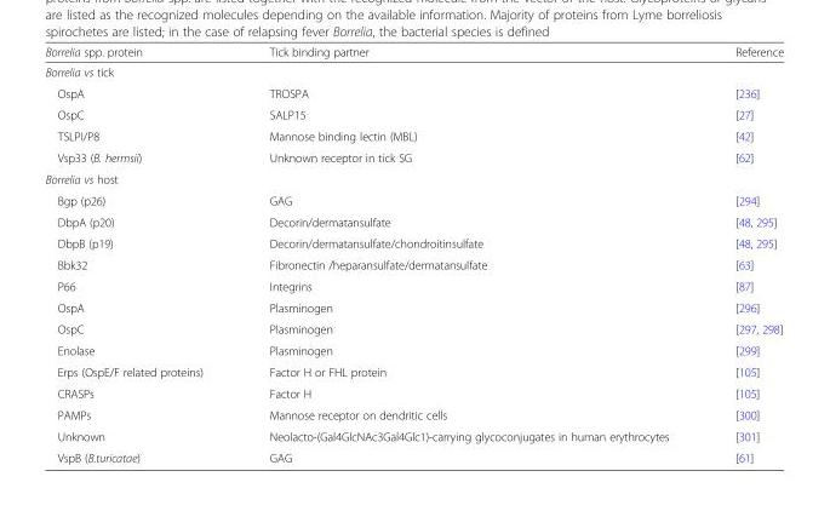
<table><thead><tr><td>Borrelia spp. protein</td><td>Tick binding partner</td><td>Reference</td></tr></thead><tbody><tr><td colspan="3">Borrelia vs tick</td></tr><tr><td>OspA</td><td>TROSPA</td><td>[236]</td></tr><tr><td>OspC</td><td>SALP15</td><td>[27]</td></tr><tr><td>TSLPI/P8</td><td>Mannose binding lectin (MBL)</td><td>[42]</td></tr><tr><td>Vsp33 (B. hermsii)</td><td>Unknown receptor in tick SG</td><td>[62]</td></tr><tr><td colspan="3">Borrelia vs host</td></tr><tr><td>Bgp (p26)</td><td>GAG</td><td>[294]</td></tr><tr><td>DbpA (p20)</td><td>Decorin/dermatansulfate</td><td>[48, 295]</td></tr><tr><td>DbpB (p19)</td><td>Decorin/dermatansulfate/chondroitinsulfate</td><td>[48, 295]</td></tr><tr><td>Bbk32</td><td>Fibronectin /heparansulfate/dermatansulfate</td><td>[63]</td></tr><tr><td>P66</td><td>Integrins</td><td>[87]</td></tr><tr><td>OspA</td><td>Plasminogen</td><td>[296]</td></tr><tr><td>OspC</td><td>Plasminogen</td><td>[297, 298]</td></tr><tr><td>Enolase</td><td>Plasminogen</td><td>[299]</td></tr><tr><td>Erps (OspE/F related proteins)</td><td>Factor H or FHL protein</td><td>[105]</td></tr><tr><td>CRASPs</td><td>Factor H</td><td>[105]</td></tr><tr><td>PAMPs</td><td>Mannose receptor on dendritic cells</td><td>[300]</td></tr><tr><td>Unknown</td><td>Neolacto-(Gal4GlcNAc3Gal4Glc1)-carrying glycoconjugates in human erythrocytes</td><td>[301]</td></tr><tr><td>VspB (B.turicatae)</td><td>GAG</td><td>[61]</td></tr></tbody></table>